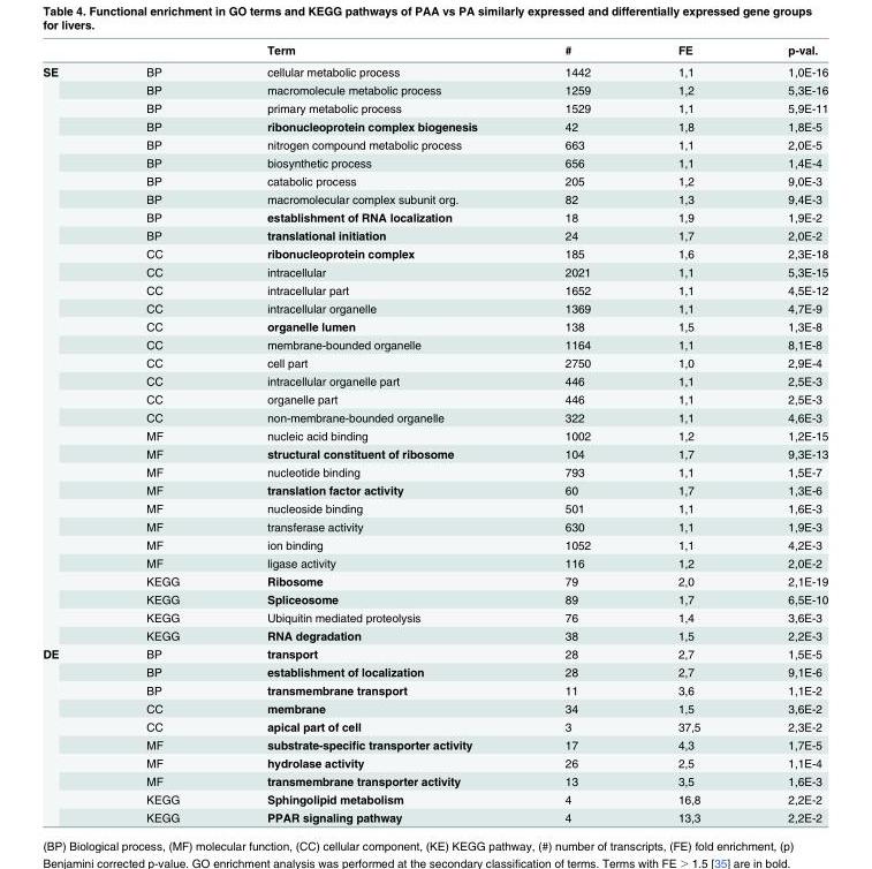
<table><thead><tr><td></td><td></td><td>Term</td><td>#</td><td>FE</td><td>p-val.</td></tr></thead><tbody><tr><td rowspan="32">SE</td><td>BP</td><td>cellular metabolic process</td><td>1442</td><td>1,1</td><td>1,0E-16</td></tr><tr><td>BP</td><td>macromolecule metabolic process</td><td>1259</td><td>1,2</td><td>5,3E-16</td></tr><tr><td>BP</td><td>primary metabolic process</td><td>1529</td><td>1,1</td><td>5,9E-11</td></tr><tr><td>BP</td><td>ribonucleoprotein complex biogenesis</td><td>42</td><td>1,8</td><td>1,8E-5</td></tr><tr><td>BP</td><td>nitrogen compound metabolic process</td><td>663</td><td>1,1</td><td>2,0E-5</td></tr><tr><td>BP</td><td>biosynthetic process</td><td>656</td><td>1,1</td><td>1,4E-4</td></tr><tr><td>BP</td><td>catabolic process</td><td>205</td><td>1,2</td><td>9,0E-3</td></tr><tr><td>BP</td><td>macromolecular complex subunit org.</td><td>82</td><td>1,3</td><td>9,4E-3</td></tr><tr><td>BP</td><td>establishment of RNA localization</td><td>18</td><td>1,9</td><td>1,9E-2</td></tr><tr><td>BP</td><td>translational initiation</td><td>24</td><td>1,7</td><td>2,0E-2</td></tr><tr><td>CC</td><td>ribonucleoprotein complex</td><td>185</td><td>1,6</td><td>2,3E-18</td></tr><tr><td>CC</td><td>intracellular</td><td>2021</td><td>1,1</td><td>5,3E-15</td></tr><tr><td>CC</td><td>intracellular part</td><td>1652</td><td>1,1</td><td>4,5E-12</td></tr><tr><td>CC</td><td>intracellular organelle</td><td>1369</td><td>1,1</td><td>4,7E-9</td></tr><tr><td>CC</td><td>organelle lumen</td><td>138</td><td>1,5</td><td>1,3E-8</td></tr><tr><td>CC</td><td>membrane-bounded organelle</td><td>1164</td><td>1,1</td><td>8,1E-8</td></tr><tr><td>CC</td><td>cell part</td><td>2750</td><td>1,0</td><td>2,9E-4</td></tr><tr><td>CC</td><td>intracellular organelle part</td><td>446</td><td>1,1</td><td>2,5E-3</td></tr><tr><td>CC</td><td>organelle part</td><td>446</td><td>1,1</td><td>2,5E-3</td></tr><tr><td>CC</td><td>non-membrane-bounded organelle</td><td>322</td><td>1,1</td><td>4,6E-3</td></tr><tr><td>MF</td><td>nucleic acid binding</td><td>1002</td><td>1,2</td><td>1,2E-15</td></tr><tr><td>MF</td><td>structural constituent of ribosome</td><td>104</td><td>1,7</td><td>9,3E-13</td></tr><tr><td>MF</td><td>nucleotide binding</td><td>793</td><td>1,1</td><td>1,5E-7</td></tr><tr><td>MF</td><td>translation factor activity</td><td>60</td><td>1,7</td><td>1,3E-6</td></tr><tr><td>MF</td><td>nucleoside binding</td><td>501</td><td>1,1</td><td>1,6E-3</td></tr><tr><td>MF</td><td>transferase activity</td><td>630</td><td>1,1</td><td>1,9E-3</td></tr><tr><td>MF</td><td>ion binding</td><td>1052</td><td>1,1</td><td>4,2E-3</td></tr><tr><td>MF</td><td>ligase activity</td><td>116</td><td>1,2</td><td>2,0E-2</td></tr><tr><td>KEGG</td><td>Ribosome</td><td>79</td><td>2,0</td><td>2,1E-19</td></tr><tr><td>KEGG</td><td>Spliceosome</td><td>89</td><td>1,7</td><td>6,5E-10</td></tr><tr><td>KEGG</td><td>Ubiquitin mediated proteolysis</td><td>76</td><td>1,4</td><td>3,6E-3</td></tr><tr><td>KEGG</td><td>RNA degradation</td><td>38</td><td>1,5</td><td>2,2E-3</td></tr><tr><td rowspan="10">DE</td><td>BP</td><td>transport</td><td>28</td><td>2,7</td><td>1,5E-5</td></tr><tr><td>BP</td><td>establishment of localization</td><td>28</td><td>2,7</td><td>9,1E-6</td></tr><tr><td>BP</td><td>transmembrane transport</td><td>11</td><td>3,6</td><td>1,1E-2</td></tr><tr><td>CC</td><td>membrane</td><td>34</td><td>1,5</td><td>3,6E-2</td></tr><tr><td>CC</td><td>apical part of cell</td><td>3</td><td>37,5</td><td>2,3E-2</td></tr><tr><td>MF</td><td>substrate-specific transporter activity</td><td>17</td><td>4,3</td><td>1,7E-5</td></tr><tr><td>MF</td><td>hydrolase activity</td><td>26</td><td>2,5</td><td>1,1E-4</td></tr><tr><td>MF</td><td>transmembrane transporter activity</td><td>13</td><td>3,5</td><td>1,6E-3</td></tr><tr><td>KEGG</td><td>Sphingolipid metabolism</td><td>4</td><td>16,8</td><td>2,2E-2</td></tr><tr><td>KEGG</td><td>PPAR signaling pathway</td><td>4</td><td>13,3</td><td>2,2E-2</td></tr></tbody></table>